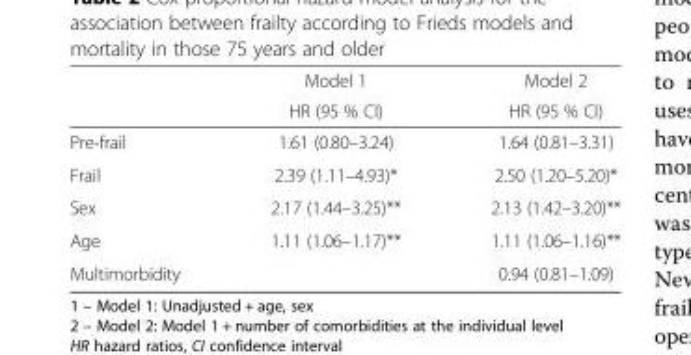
<table><thead><tr><td rowspan="2"></td><td rowspan="2">Model 1 HR (95 % CI)</td><td rowspan="2">Model 2 HR (95 % CI)</td></tr><tr></tr></thead><tbody><tr><td>Pre-frail</td><td>1.61 (0.80–3.24)</td><td>1.64 (0.81–3.31)</td></tr><tr><td>Frail</td><td>2.39 (1.11–4.93)*</td><td>2.50 (1.20–5.20)*</td></tr><tr><td>Sex</td><td>2.17 (1.44–3.25)**</td><td>2.13 (1.42–3.20)**</td></tr><tr><td>Age</td><td>1.11 (1.06–1.17)**</td><td>1.11 (1.06–1.16)**</td></tr><tr><td>Multimorbidity</td><td></td><td>0.94 (0.81–1.09)</td></tr></tbody></table>